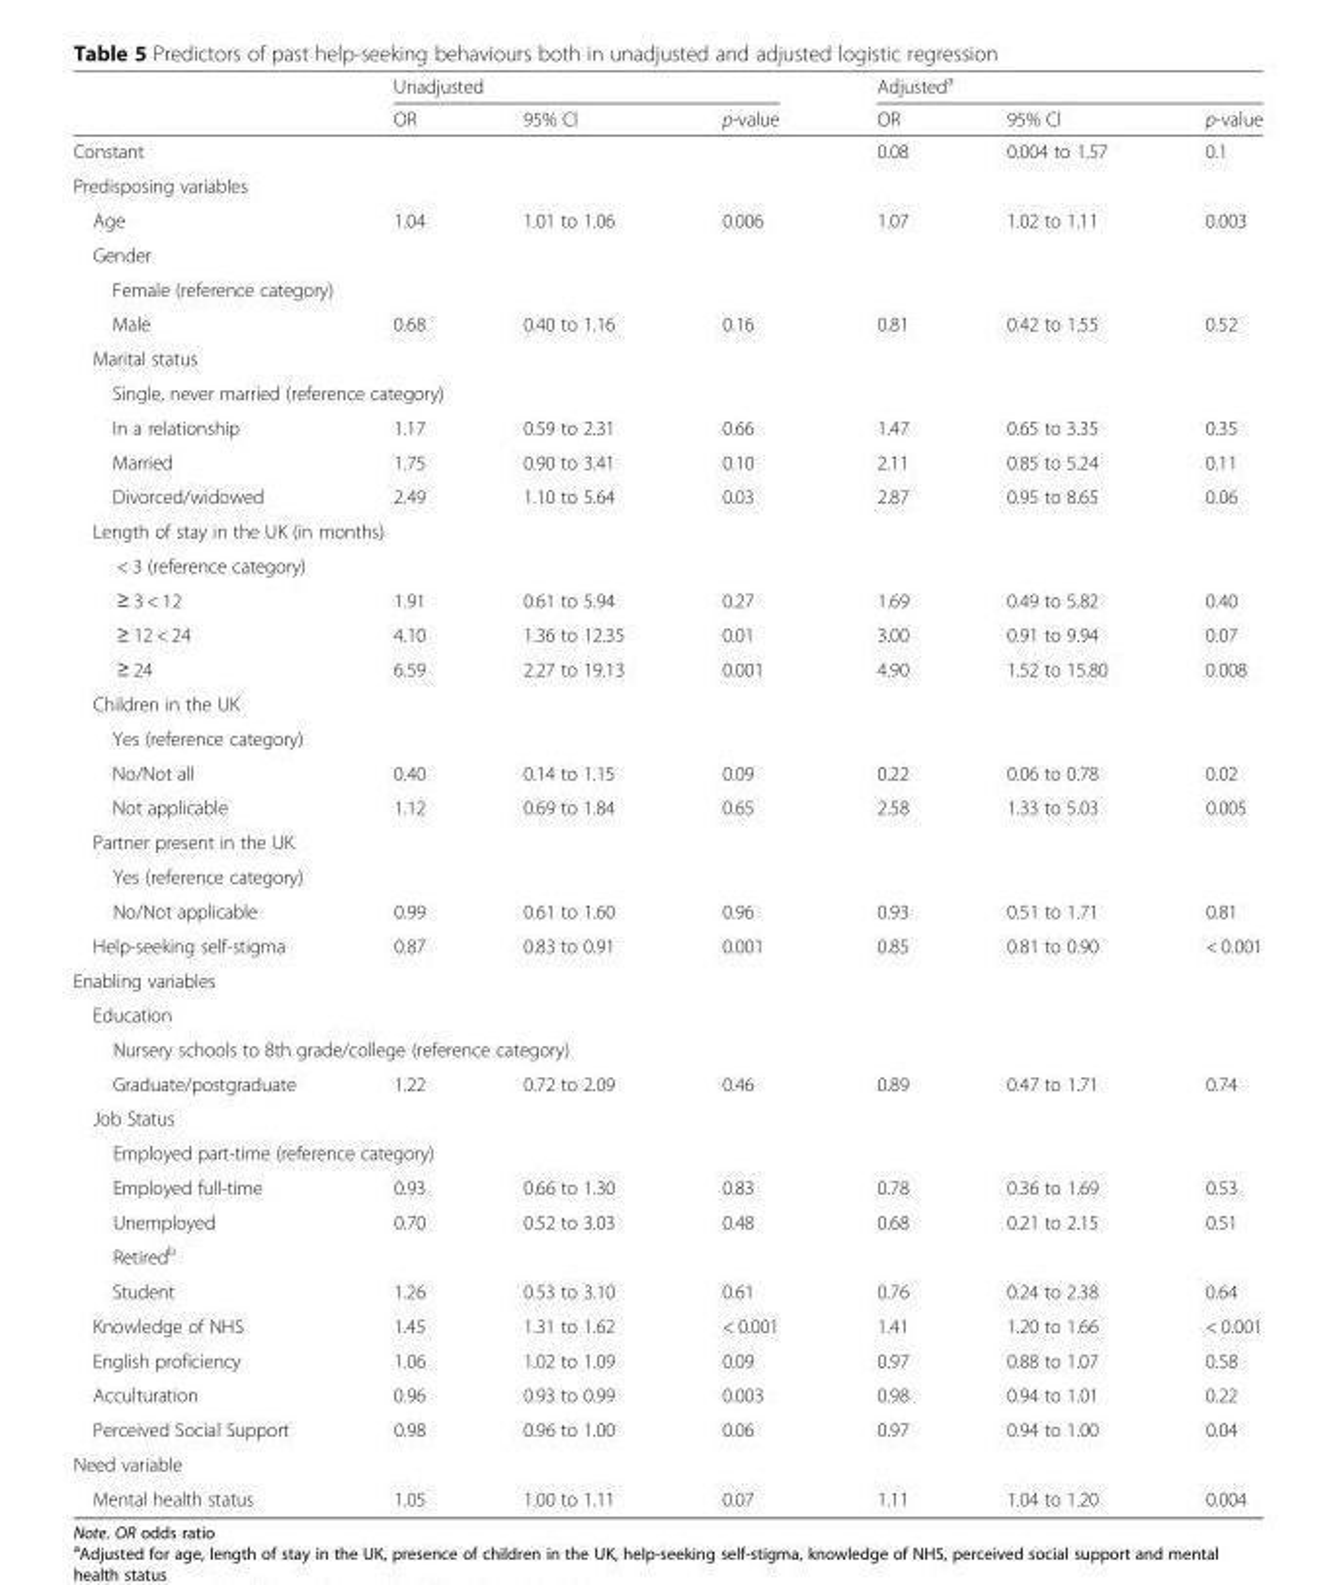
<table><thead><tr><td rowspan="2"></td><td colspan="3">Unadjusted</td><td colspan="3">Adjusted<sup>a</sup></td></tr><tr><td>OR</td><td>95% Cl</td><td>p-value</td><td>OR</td><td>95% Cl</td><td>p-value</td></tr></thead><tbody><tr><td>Constant</td><td></td><td></td><td></td><td>0.08</td><td>0.004 to 1.57</td><td>0.1</td></tr><tr><td colspan="7">Predisposing variables</td></tr><tr><td>Age</td><td>1.04</td><td>1.01 to 1.06</td><td>0.006</td><td>1.07</td><td>1.02 to 1.11</td><td>0.003</td></tr><tr><td colspan="7">Gender</td></tr><tr><td colspan="7">Female (reference category)</td></tr><tr><td>Male</td><td>0.68</td><td>0.40 to 1.16</td><td>0.16</td><td>0.81</td><td>0.42 to 1.55</td><td>0.52</td></tr><tr><td colspan="7">Marital status</td></tr><tr><td colspan="7">Single, never married (reference category)</td></tr><tr><td>In a relationship</td><td>1.17</td><td>0.59 to 2.31</td><td>0.66</td><td>1.47</td><td>0.65 to 3.35</td><td>0.35</td></tr><tr><td>Married</td><td>1.75</td><td>0.90 to 3.41</td><td>0.10</td><td>2.11</td><td>0.85 to 5.24</td><td>0.11</td></tr><tr><td>Divorced/widowed</td><td>2.49</td><td>1.10 to 5.64</td><td>0.03</td><td>2.87</td><td>0.95 to 8.65</td><td>0.06</td></tr><tr><td colspan="7">Length of stay in the UK (in months)</td></tr><tr><td colspan="7">&lt; 3 (reference category)</td></tr><tr><td>≥ 3 &lt; 12</td><td>1.91</td><td>0.61 to 5.94</td><td>0.27</td><td>1.69</td><td>0.49 to 5.82</td><td>0.40</td></tr><tr><td>≥ 12 &lt; 24</td><td>4.10</td><td>1.36 to 12.35</td><td>0.01</td><td>3.00</td><td>0.91 to 9.94</td><td>0.07</td></tr><tr><td>≥ 24</td><td>6.59</td><td>2.27 to 19.13</td><td>0.001</td><td>4.90</td><td>1.52 to 15.80</td><td>0.008</td></tr><tr><td colspan="7">Children in the UK</td></tr><tr><td colspan="7">Yes (reference category)</td></tr><tr><td>No/Not all</td><td>0.40</td><td>0.14 to 1.15</td><td>0.09</td><td>0.22</td><td>0.06 to 0.78</td><td>0.02</td></tr><tr><td>Not applicable</td><td>1.12</td><td>0.69 to 1.84</td><td>0.65</td><td>2.58</td><td>1.33 to 5.03</td><td>0.005</td></tr><tr><td colspan="7">Partner present in the UK</td></tr><tr><td colspan="7">Yes (reference category)</td></tr><tr><td>No/Not applicable</td><td>0.99</td><td>0.61 to 1.60</td><td>0.96</td><td>0.93</td><td>0.51 to 1.71</td><td>0.81</td></tr><tr><td>Help-seeking self-stigma</td><td>0.87</td><td>0.83 to 0.91</td><td>0.001</td><td>0.85</td><td>0.81 to 0.90</td><td>&lt; 0.001</td></tr><tr><td colspan="7">Enabling variables</td></tr><tr><td colspan="7">Education</td></tr><tr><td colspan="7">Nursery schools to 8th grade/college (reference category)</td></tr><tr><td>Graduate/postgraduate</td><td>1.22</td><td>0.72 to 2.09</td><td>0.46</td><td>0.89</td><td>0.47 to 1.71</td><td>0.74</td></tr><tr><td colspan="7">Job Status</td></tr><tr><td colspan="7">Employed part-time (reference category)</td></tr><tr><td>Employed full-time</td><td>0.93</td><td>0.66 to 1.30</td><td>0.83</td><td>0.78</td><td>0.36 to 1.69</td><td>0.53</td></tr><tr><td>Unemployed</td><td>0.70</td><td>0.52 to 3.03</td><td>0.48</td><td>0.68</td><td>0.21 to 2.15</td><td>0.51</td></tr><tr><td colspan="7">Retired<sup>b</sup></td></tr><tr><td>Student</td><td>1.26</td><td>0.53 to 3.10</td><td>0.61</td><td>0.76</td><td>0.24 to 2.38</td><td>0.64</td></tr><tr><td>Knowledge of NHS</td><td>1.45</td><td>1.31 to 1.62</td><td>&lt; 0.001</td><td>1.41</td><td>1.20 to 1.66</td><td>&lt; 0.001</td></tr><tr><td>English proficiency</td><td>1.06</td><td>1.02 to 1.09</td><td>0.09</td><td>0.97</td><td>0.88 to 1.07</td><td>0.58</td></tr><tr><td>Acculturation</td><td>0.96</td><td>0.93 to 0.99</td><td>0.003</td><td>0.98</td><td>0.94 to 1.01</td><td>0.22</td></tr><tr><td>Perceived Social Support</td><td>0.98</td><td>0.96 to 1.00</td><td>0.06</td><td>0.97</td><td>0.94 to 1.00</td><td>0.04</td></tr><tr><td colspan="7">Need variable</td></tr><tr><td>Mental health status</td><td>1.05</td><td>1.00 to 1.11</td><td>0.07</td><td>1.11</td><td>1.04 to 1.20</td><td>0.004</td></tr></tbody></table>